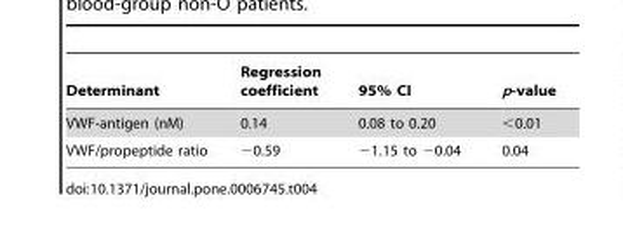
<table><thead><tr><td>Determinant</td><td>Regression coefficient</td><td>95% CI</td><td>p-value</td></tr></thead><tbody><tr><td>VWF-antigen (nM)</td><td>0.14</td><td>0.08 to 0.20</td><td>&lt;0.01</td></tr><tr><td>VWF/propeptide ratio</td><td>−0.59</td><td>−1.15 to −0.04</td><td>0.04</td></tr></tbody></table>